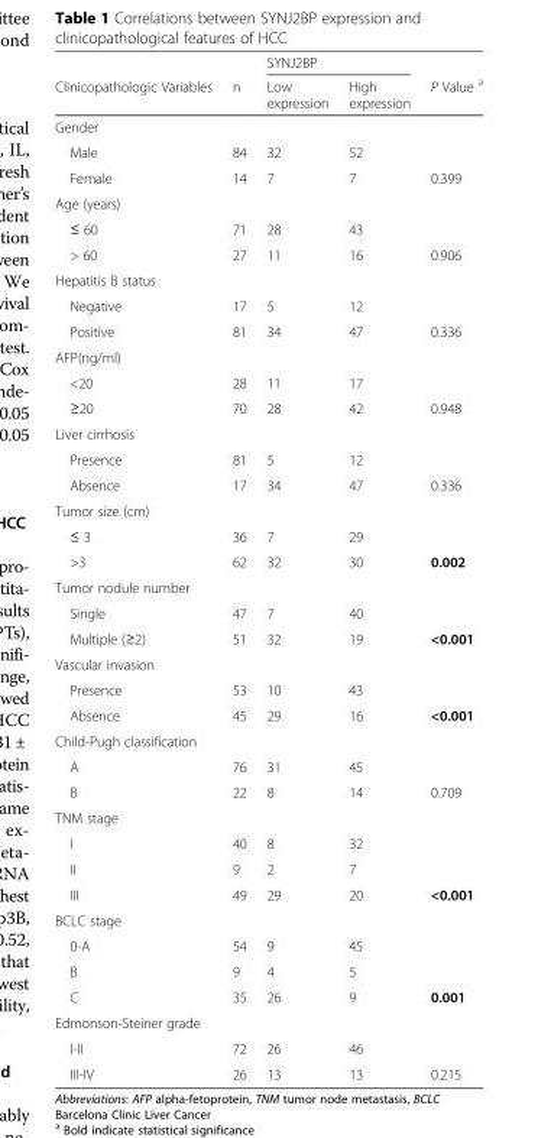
<table><thead><tr><td rowspan="2">Clinicopathologic Variables</td><td rowspan="2">n</td><td colspan="2">SYNJ2BP</td><td rowspan="2">P Value <sup>a</sup></td></tr><tr><td>Low expression</td><td>High expression</td></tr></thead><tbody><tr><td colspan="5">Gender</td></tr><tr><td>Male</td><td>84</td><td>32</td><td>52</td><td></td></tr><tr><td>Female</td><td>14</td><td>7</td><td>7</td><td>0.399</td></tr><tr><td colspan="5">Age (years)</td></tr><tr><td>≤ 60</td><td>71</td><td>28</td><td>43</td><td></td></tr><tr><td>&gt; 60</td><td>27</td><td>11</td><td>16</td><td>0.906</td></tr><tr><td colspan="5">Hepatitis B status</td></tr><tr><td>Negative</td><td>17</td><td>5</td><td>12</td><td></td></tr><tr><td>Positive</td><td>81</td><td>34</td><td>47</td><td>0.336</td></tr><tr><td colspan="5">AFP(ng/ml)</td></tr><tr><td>&lt;20</td><td>28</td><td>11</td><td>17</td><td></td></tr><tr><td>≥20</td><td>70</td><td>28</td><td>42</td><td>0.948</td></tr><tr><td colspan="5">Liver cirrhosis</td></tr><tr><td>Presence</td><td>81</td><td>5</td><td>12</td><td></td></tr><tr><td>Absence</td><td>17</td><td>34</td><td>47</td><td>0.336</td></tr><tr><td colspan="5">Tumor size (cm)</td></tr><tr><td>≤ 3</td><td>36</td><td>7</td><td>29</td><td></td></tr><tr><td>&gt;3</td><td>62</td><td>32</td><td>30</td><td>0.002</td></tr><tr><td colspan="5">Tumor nodule number</td></tr><tr><td>Single</td><td>47</td><td>7</td><td>40</td><td></td></tr><tr><td>Multiple (≥2)</td><td>51</td><td>32</td><td>19</td><td>&lt;0.001</td></tr><tr><td colspan="5">Vascular invasion</td></tr><tr><td>Presence</td><td>53</td><td>10</td><td>43</td><td></td></tr><tr><td>Absence</td><td>45</td><td>29</td><td>16</td><td>&lt;0.001</td></tr><tr><td colspan="5">Child-Pugh classification</td></tr><tr><td>A</td><td>76</td><td>31</td><td>45</td><td></td></tr><tr><td>B</td><td>22</td><td>8</td><td>14</td><td>0.709</td></tr><tr><td colspan="5">TNM stage</td></tr><tr><td>I</td><td>40</td><td>8</td><td>32</td><td></td></tr><tr><td>II</td><td>9</td><td>2</td><td>7</td><td></td></tr><tr><td>III</td><td>49</td><td>29</td><td>20</td><td>&lt;0.001</td></tr><tr><td colspan="5">BCLC stage</td></tr><tr><td>0-A</td><td>54</td><td>9</td><td>45</td><td></td></tr><tr><td>B</td><td>9</td><td>4</td><td>5</td><td></td></tr><tr><td>C</td><td>35</td><td>26</td><td>9</td><td>0.001</td></tr><tr><td colspan="5">Edmonson-Steiner grade</td></tr><tr><td>I-II</td><td>72</td><td>26</td><td>46</td><td></td></tr><tr><td>III-IV</td><td>26</td><td>13</td><td>13</td><td>0.215</td></tr></tbody></table>